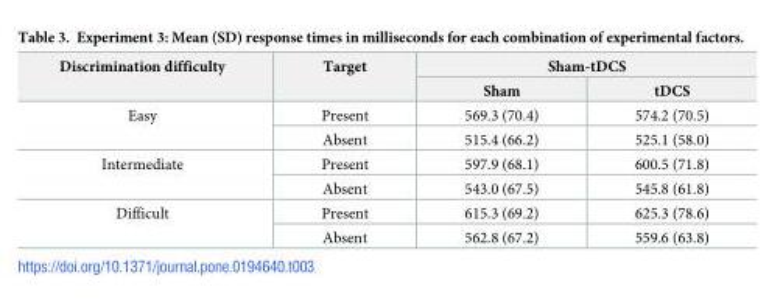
<table><thead><tr><td rowspan="2">Discrimination difficulty</td><td rowspan="2">Target</td><td colspan="2">Sham-tDCS</td></tr><tr><td>Sham</td><td>tDCS</td></tr></thead><tbody><tr><td rowspan="2">Easy</td><td>Present</td><td>569.3 (70.4)</td><td>574.2 (70.5)</td></tr><tr><td>Absent</td><td>515.4 (66.2)</td><td>525.1 (58.0)</td></tr><tr><td rowspan="2">Intermediate</td><td>Present</td><td>597.9 (68.1)</td><td>600.5 (71.8)</td></tr><tr><td>Absent</td><td>543.0 (67.5)</td><td>545.8 (61.8)</td></tr><tr><td rowspan="2">Difficult</td><td>Present</td><td>615.3 (69.2)</td><td>625.3 (78.6)</td></tr><tr><td>Absent</td><td>562.8 (67.2)</td><td>559.6 (63.8)</td></tr></tbody></table>